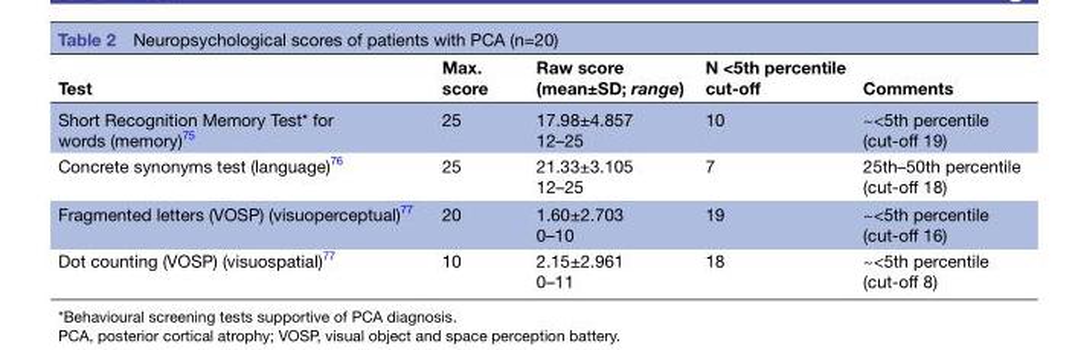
<table><thead><tr><td>Test</td><td>Max. score</td><td>Raw score (mean±SD; range)</td><td>N &lt;5th percentile cut-off</td><td>Comments</td></tr></thead><tbody><tr><td>Short Recognition Memory Test* for words (memory)<sup>75</sup></td><td>25</td><td>17.98±4.857 12–25</td><td>10</td><td>~&lt;5th percentile (cut-off 19)</td></tr><tr><td>Concrete synonyms test (language)<sup>76</sup></td><td>25</td><td>21.33±3.105 12–25</td><td>7</td><td>25th–50th percentile (cut-off 18)</td></tr><tr><td>Fragmented letters (VOSP) (visuoperceptual)<sup>77</sup></td><td>20</td><td>1.60±2.703 0–10</td><td>19</td><td>~&lt;5th percentile (cut-off 16)</td></tr><tr><td>Dot counting (VOSP) (visuospatial)<sup>77</sup></td><td>10</td><td>2.15±2.961 0–11</td><td>18</td><td>~&lt;5th percentile (cut-off 8)</td></tr></tbody></table>